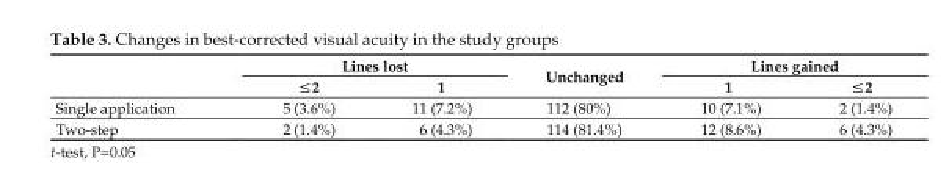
<table><thead><tr><td rowspan="2"></td><td colspan="2">Lines lost</td><td rowspan="2">Unchanged</td><td colspan="2">Lines gained</td></tr><tr><td>≤2</td><td>1</td><td>1</td><td>≤2</td></tr></thead><tbody><tr><td>Single application</td><td>5 (3.6%)</td><td>11 (7.2%)</td><td>112 (80%)</td><td>10 (7.1%)</td><td>2 (1.4%)</td></tr><tr><td>Two-step</td><td>2 (1.4%)</td><td>6 (4.3%)</td><td>114 (81.4%)</td><td>12 (8.6%)</td><td>6 (4.3%)</td></tr></tbody></table>